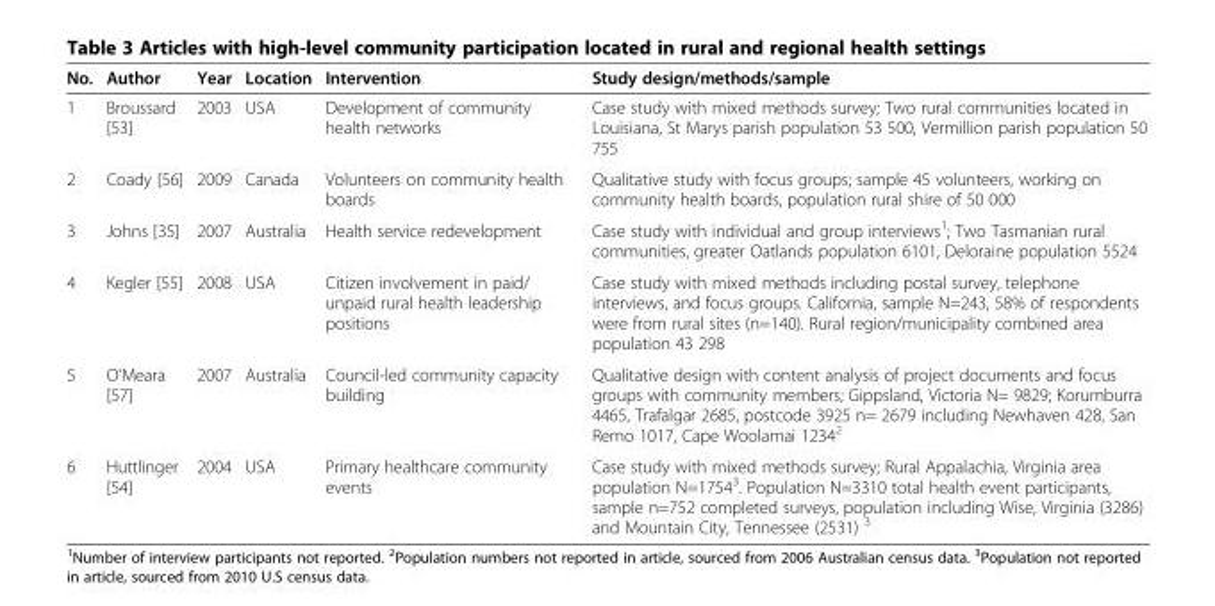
<table><thead><tr><td>No.</td><td>Author</td><td>Year</td><td>Location</td><td>Intervention</td><td>Study design/methods/sample</td></tr></thead><tbody><tr><td>1</td><td>Broussard [53]</td><td>2003</td><td>USA</td><td>Development of community health networks</td><td>Case study with mixed methods survey; Two rural communities located in Louisiana, St Marys parish population 53 500, Vermillion parish population 50 755</td></tr><tr><td>2</td><td>Coady [56]</td><td>2009</td><td>Canada</td><td>Volunteers on community health boards</td><td>Qualitative study with focus groups; sample 45 volunteers, working on community health boards, population rural shire of 50 000</td></tr><tr><td>3</td><td>Johns [35]</td><td>2007</td><td>Australia</td><td>Health service redevelopment</td><td>Case study with individual and group interviews<sup>1</sup>; Two Tasmanian rural communities, greater Oatlands population 6101, Deloraine population 5524</td></tr><tr><td>4</td><td>Kegler [55]</td><td>2008</td><td>USA</td><td>Citizen involvement in paid/ unpaid rural health leadership positions</td><td>Case study with mixed methods including postal survey, telephone interviews, and focus groups. California, sample N=243, 58% of respondents were from rural sites (n=140). Rural region/municipality combined area population 43 298</td></tr><tr><td>5</td><td>O&#x27;Meara [57]</td><td>2007</td><td>Australia</td><td>Council-led community capacity building</td><td>Qualitative design with content analysis of project documents and focus groups with community members; Gippsland, Victoria N= 9829; Korumburra 4465, Trafalgar 2685, postcode 3925 n= 2679 including Newhaven 428, San Remo 1017, Cape Woolamai 1234<sup>2</sup></td></tr><tr><td>6</td><td>Huttlinger [54]</td><td>2004</td><td>USA</td><td>Primary healthcare community events</td><td>Case study with mixed methods survey; Rural Appalachia, Virginia area population N=1754<sup>3</sup>. Population N=3310 total health event participants, sample n=752 completed surveys, population including Wise, Virginia (3286) and Mountain City, Tennessee (2531) <sup>3</sup></td></tr></tbody></table>